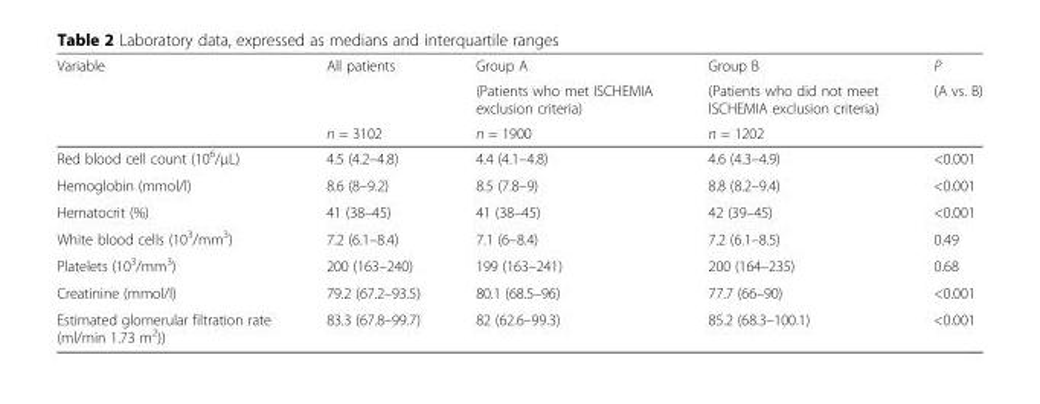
<table><thead><tr><td rowspan="3">Variable</td><td rowspan="3">All patients n = 3102</td><td rowspan="3">Group A (Patients who met ISCHEMIA exclusion criteria) n = 1900</td><td rowspan="3">Group B (Patients who did not meet ISCHEMIA exclusion criteria) n = 1202</td><td rowspan="3">P (A vs. B)</td></tr><tr></tr><tr></tr></thead><tbody><tr><td>Red blood cell count (10<sup>6</sup>/µL)</td><td>4.5 (4.2–4.8)</td><td>4.4 (4.1–4.8)</td><td>4.6 (4.3–4.9)</td><td>&lt;0.001</td></tr><tr><td>Hemoglobin (mmol/l)</td><td>8.6 (8–9.2)</td><td>8.5 (7.8–9)</td><td>8.8 (8.2–9.4)</td><td>&lt;0.001</td></tr><tr><td>Hematocrit (%)</td><td>41 (38–45)</td><td>41 (38–45)</td><td>42 (39–45)</td><td>&lt;0.001</td></tr><tr><td>White blood cells (10<sup>3</sup>/mm<sup>3</sup>)</td><td>7.2 (6.1–8.4)</td><td>7.1 (6–8.4)</td><td>7.2 (6.1–8.5)</td><td>0.49</td></tr><tr><td>Platelets (10<sup>3</sup>/mm<sup>3</sup>)</td><td>200 (163–240)</td><td>199 (163–241)</td><td>200 (164–235)</td><td>0.68</td></tr><tr><td>Creatinine (mmol/l)</td><td>79.2 (67.2–93.5)</td><td>80.1 (68.5–96)</td><td>77.7 (66–90)</td><td>&lt;0.001</td></tr><tr><td>Estimated glomerular filtration rate (ml/min 1.73 m<sup>2</sup>))</td><td>83.3 (67.8–99.7)</td><td>82 (62.6–99.3)</td><td>85.2 (68.3–100.1)</td><td>&lt;0.001</td></tr></tbody></table>